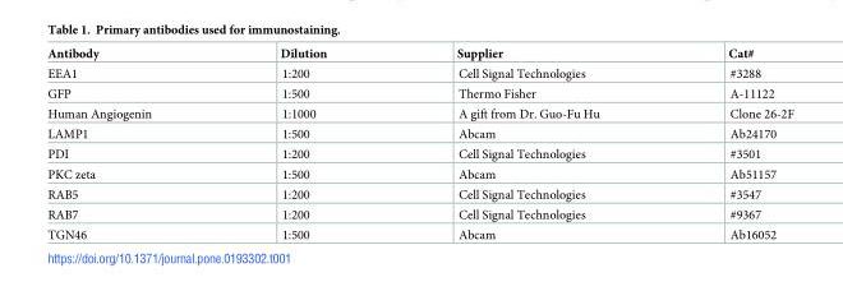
<table><thead><tr><td>Antibody</td><td>Dilution</td><td>Supplier</td><td>Cat#</td></tr></thead><tbody><tr><td>EEA1</td><td>1:200</td><td>Cell Signal Technologies</td><td>#3288</td></tr><tr><td>GFP</td><td>1:500</td><td>Thermo Fisher</td><td>A-11122</td></tr><tr><td>Human Angiogenin</td><td>1:1000</td><td>A gift from Dr. Guo-Fu Hu</td><td>Clone 26-2F</td></tr><tr><td>LAMP1</td><td>1:500</td><td>Abcam</td><td>Ab24170</td></tr><tr><td>PDI</td><td>1:200</td><td>Cell Signal Technologies</td><td>#3501</td></tr><tr><td>PKC zeta</td><td>1:500</td><td>Abcam</td><td>Ab51157</td></tr><tr><td>RAB5</td><td>1:200</td><td>Cell Signal Technologies</td><td>#3547</td></tr><tr><td>RAB7</td><td>1:200</td><td>Cell Signal Technologies</td><td>#9367</td></tr><tr><td>TGN46</td><td>1:500</td><td>Abcam</td><td>Ab16052</td></tr></tbody></table>